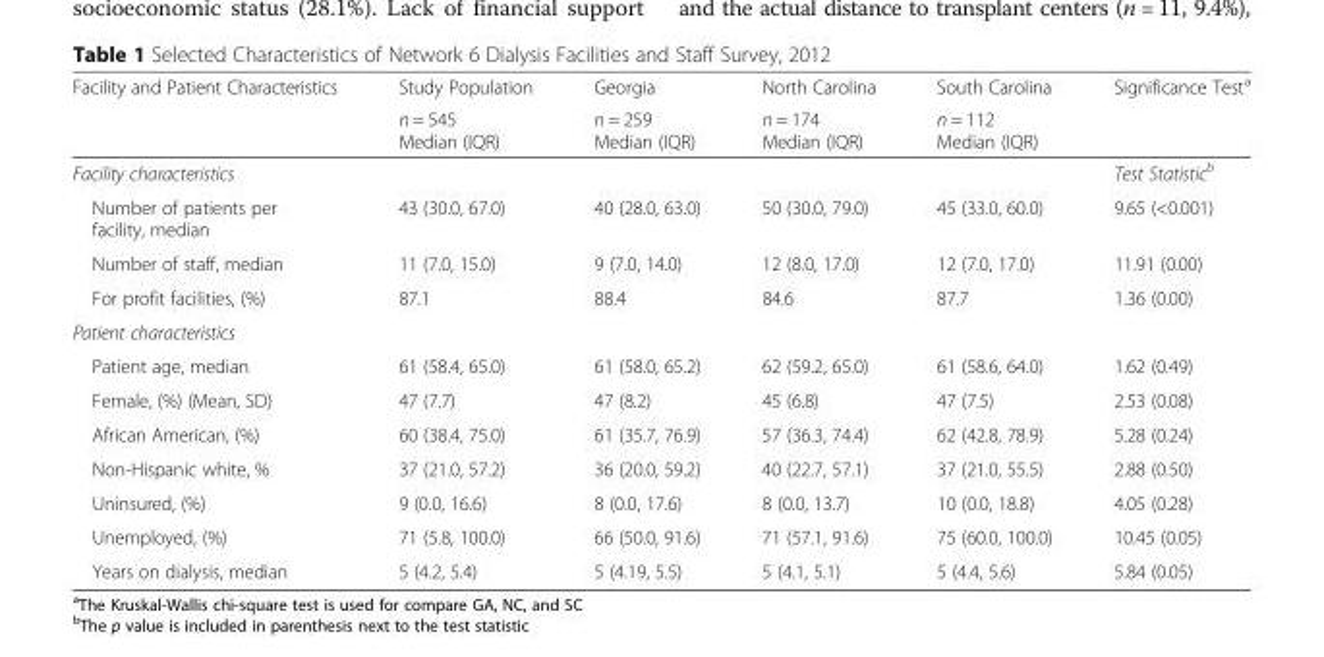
<table><thead><tr><td rowspan="2">Facility and Patient Characteristics</td><td rowspan="2">Study Population n = 545 Median (IQR)</td><td rowspan="2">Georgia n = 259 Median (IQR)</td><td rowspan="2">North Carolina n = 174 Median (IQR)</td><td rowspan="2">South Carolina n = 112 Median (IQR)</td><td rowspan="2">Significance Test<sup>a</sup></td></tr><tr></tr></thead><tbody><tr><td>Facility characteristics</td><td></td><td></td><td></td><td></td><td>Test Statistic<sup>b</sup></td></tr><tr><td>Number of patients per facility, median</td><td>43 (30.0, 67.0)</td><td>40 (28.0, 63.0)</td><td>50 (30.0, 79.0)</td><td>45 (33.0, 60.0)</td><td>9.65 (&lt;0.001)</td></tr><tr><td>Number of staff, median</td><td>11 (7.0, 15.0)</td><td>9 (7.0, 14.0)</td><td>12 (8.0, 17.0)</td><td>12 (7.0, 17.0)</td><td>11.91 (0.00)</td></tr><tr><td>For profit facilities, (%)</td><td>87.1</td><td>88.4</td><td>84.6</td><td>87.7</td><td>1.36 (0.00)</td></tr><tr><td colspan="6">Patient characteristics</td></tr><tr><td>Patient age, median</td><td>61 (58.4, 65.0)</td><td>61 (58.0, 65.2)</td><td>62 (59.2, 65.0)</td><td>61 (58.6, 64.0)</td><td>1.62 (0.49)</td></tr><tr><td>Female, (%) (Mean, SD)</td><td>47 (7.7)</td><td>47 (8.2)</td><td>45 (6.8)</td><td>47 (7.5)</td><td>2.53 (0.08)</td></tr><tr><td>African American, (%)</td><td>60 (38.4, 75.0)</td><td>61 (35.7, 76.9)</td><td>57 (36.3, 74.4)</td><td>62 (42.8, 78.9)</td><td>5.28 (0.24)</td></tr><tr><td>Non-Hispanic white, %</td><td>37 (21.0, 57.2)</td><td>36 (20.0, 59.2)</td><td>40 (22.7, 57.1)</td><td>37 (21.0, 55.5)</td><td>2.88 (0.50)</td></tr><tr><td>Uninsured, (%)</td><td>9 (0.0, 16.6)</td><td>8 (0.0, 17.6)</td><td>8 (0.0, 13.7)</td><td>10 (0.0, 18.8)</td><td>4.05 (0.28)</td></tr><tr><td>Unemployed, (%)</td><td>71 (5.8, 100.0)</td><td>66 (50.0, 91.6)</td><td>71 (57.1, 91.6)</td><td>75 (60.0, 100.0)</td><td>10.45 (0.05)</td></tr><tr><td>Years on dialysis, median</td><td>5 (4.2, 5.4)</td><td>5 (4.19, 5.5)</td><td>5 (4.1, 5.1)</td><td>5 (4.4, 5.6)</td><td>5.84 (0.05)</td></tr></tbody></table>